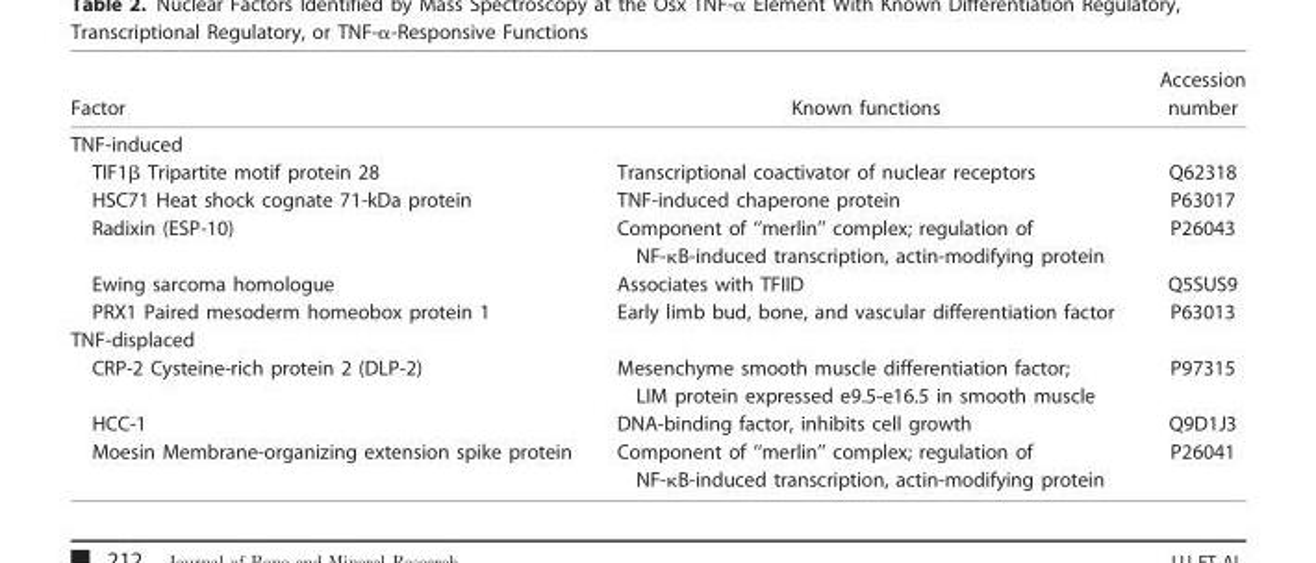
<table><thead><tr><td>Factor</td><td>Known functions</td><td>Accession number</td></tr></thead><tbody><tr><td colspan="3">TNF-induced</td></tr><tr><td>TIF1β Tripartite motif protein 28</td><td>Transcriptional coactivator of nuclear receptors</td><td>Q62318</td></tr><tr><td>HSC71 Heat shock cognate 71-kDa protein</td><td>TNF-induced chaperone protein</td><td>P63017</td></tr><tr><td>Radixin (ESP-10)</td><td>Component of ‘‘merlin’’ complex; regulation of NF-kB-induced transcription, actin-modifying protein</td><td>P26043</td></tr><tr><td>Ewing sarcoma homologue</td><td>Associates with TFIID</td><td>Q5SUS9</td></tr><tr><td>PRX1 Paired mesoderm homeobox protein 1</td><td>Early limb bud, bone, and vascular differentiation factor</td><td>P63013</td></tr><tr><td colspan="3">TNF-displaced</td></tr><tr><td>CRP-2 Cysteine-rich protein 2 (DLP-2)</td><td>Mesenchyme smooth muscle differentiation factor; LIM protein expressed e9.5-e16.5 in smooth muscle</td><td>P97315</td></tr><tr><td>HCC-1</td><td>DNA-binding factor, inhibits cell growth</td><td>Q9D1J3</td></tr><tr><td>Moesin Membrane-organizing extension spike protein</td><td>Component of ‘‘merlin’’ complex; regulation of NF-kB-induced transcription, actin-modifying protein</td><td>P26041</td></tr></tbody></table>